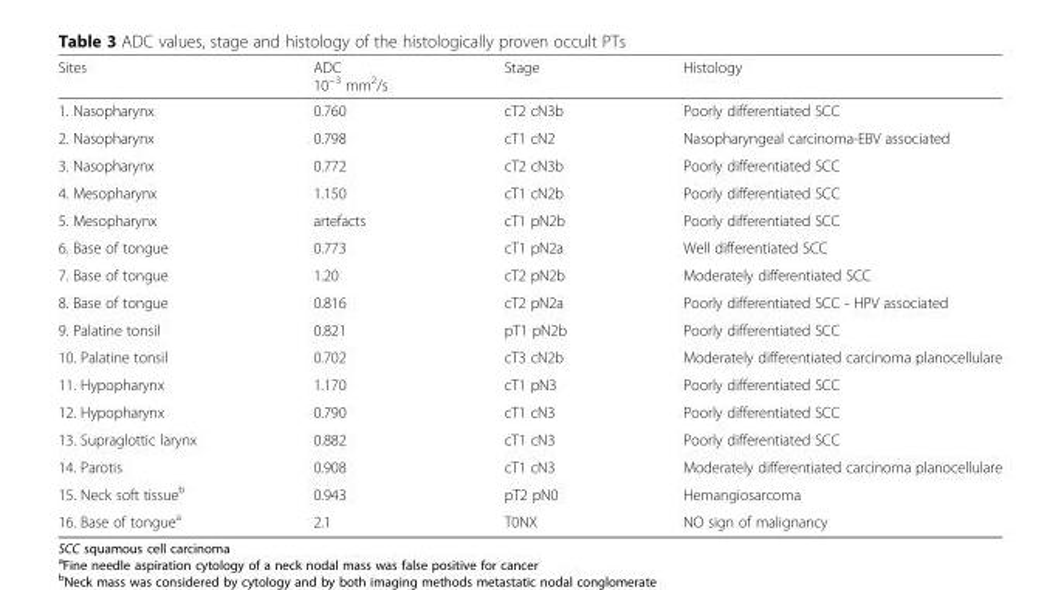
<table><thead><tr><td>Sites</td><td>ADC 10<sup>−3</sup> mm<sup>2</sup>/s</td><td>Stage</td><td>Histology</td></tr></thead><tbody><tr><td>1. Nasopharynx</td><td>0.760</td><td>cT2 cN3b</td><td>Poorly differentiated SCC</td></tr><tr><td>2. Nasopharynx</td><td>0.798</td><td>cT1 cN2</td><td>Nasopharyngeal carcinoma-EBV associated</td></tr><tr><td>3. Nasopharynx</td><td>0.772</td><td>cT2 cN3b</td><td>Poorly differentiated SCC</td></tr><tr><td>4. Mesopharynx</td><td>1.150</td><td>cT1 cN2b</td><td>Poorly differentiated SCC</td></tr><tr><td>5. Mesopharynx</td><td>artefacts</td><td>cT1 pN2b</td><td>Poorly differentiated SCC</td></tr><tr><td>6. Base of tongue</td><td>0.773</td><td>cT1 pN2a</td><td>Well differentiated SCC</td></tr><tr><td>7. Base of tongue</td><td>1.20</td><td>cT2 pN2b</td><td>Moderately differentiated SCC</td></tr><tr><td>8. Base of tongue</td><td>0.816</td><td>cT2 pN2a</td><td>Poorly differentiated SCC - HPV associated</td></tr><tr><td>9. Palatine tonsil</td><td>0.821</td><td>pT1 pN2b</td><td>Poorly differentiated SCC</td></tr><tr><td>10. Palatine tonsil</td><td>0.702</td><td>cT3 cN2b</td><td>Moderately differentiated carcinoma planocellulare</td></tr><tr><td>11. Hypopharynx</td><td>1.170</td><td>cT1 pN3</td><td>Poorly differentiated SCC</td></tr><tr><td>12. Hypopharynx</td><td>0.790</td><td>cT1 cN3</td><td>Poorly differentiated SCC</td></tr><tr><td>13. Supraglottic larynx</td><td>0.882</td><td>cT1 cN3</td><td>Poorly differentiated SCC</td></tr><tr><td>14. Parotis</td><td>0.908</td><td>cT1 cN3</td><td>Moderately differentiated carcinoma planocellulare</td></tr><tr><td>15. Neck soft tissue<sup>b</sup></td><td>0.943</td><td>pT2 pN0</td><td>Hemangiosarcoma</td></tr><tr><td>16. Base of tongue<sup>a</sup></td><td>2.1</td><td>T0NX</td><td>NO sign of malignancy</td></tr></tbody></table>